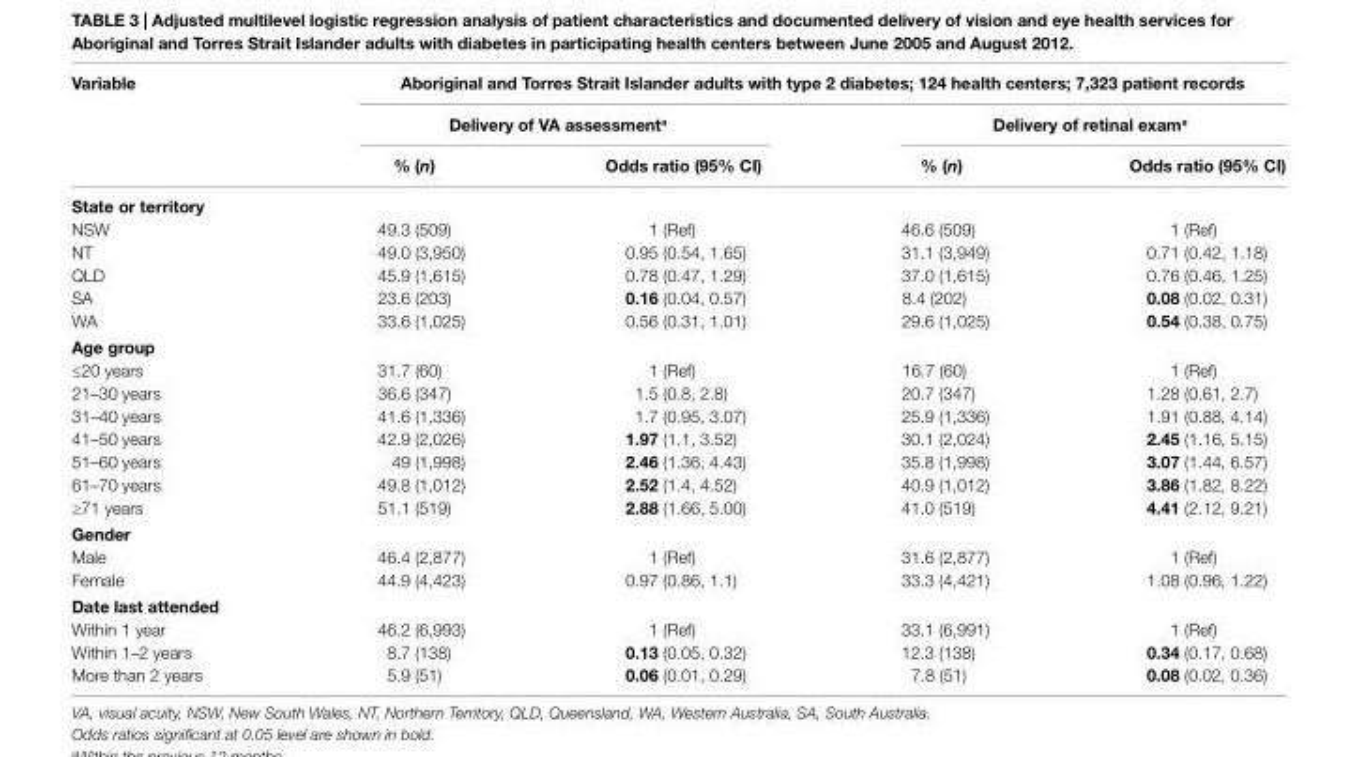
<table><thead><tr><td rowspan="3">Variable</td><td colspan="4">aboriginal and Torres strait islander adults with type 2 diabetes; 124 health centers; 7,323 patient records</td></tr><tr><td colspan="2">Delivery of Va assessment<sup>a</sup></td><td colspan="2">Delivery of retinal exam<sup>a</sup></td></tr><tr><td>% (n)</td><td>Odds ratio (95% ci)</td><td>% (n)</td><td>Odds ratio (95% ci)</td></tr></thead><tbody><tr><td colspan="5">state or territory</td></tr><tr><td>NSW</td><td>49.3 (509)</td><td>1 (Ref)</td><td>46.6 (509)</td><td>1 (Ref)</td></tr><tr><td>NT</td><td>49.0 (3,950)</td><td>0.95 (0.54, 1.65)</td><td>31.1 (3,949)</td><td>0.71 (0.42, 1.18)</td></tr><tr><td>QLD</td><td>45.9 (1,615)</td><td>0.78 (0.47, 1.29)</td><td>37.0 (1,615)</td><td>0.76 (0.46, 1.25)</td></tr><tr><td>SA</td><td>23.6 (203)</td><td>0.16 (0.04, 0.57)</td><td>8.4 (202)</td><td>0.08 (0.02, 0.31)</td></tr><tr><td>WA</td><td>33.6 (1,025)</td><td>0.56 (0.31, 1.01)</td><td>29.6 (1,025)</td><td>0.54 (0.38, 0.75)</td></tr><tr><td colspan="5">age group</td></tr><tr><td>≤20 years</td><td>31.7 (60)</td><td>1 (Ref)</td><td>16.7 (60)</td><td>1 (Ref)</td></tr><tr><td>21–30 years</td><td>36.6 (347)</td><td>1.5 (0.8, 2.8)</td><td>20.7 (347)</td><td>1.28 (0.61, 2.7)</td></tr><tr><td>31–40 years</td><td>41.6 (1,336)</td><td>1.7 (0.95, 3.07)</td><td>25.9 (1,336)</td><td>1.91 (0.88, 4.14)</td></tr><tr><td>41–50 years</td><td>42.9 (2,026)</td><td>1.97 (1.1, 3.52)</td><td>30.1 (2,024)</td><td>2.45 (1.16, 5.15)</td></tr><tr><td>51–60 years</td><td>49 (1,998)</td><td>2.46 (1.36, 4.43)</td><td>35.8 (1,998)</td><td>3.07 (1.44, 6.57)</td></tr><tr><td>61–70 years</td><td>49.8 (1,012)</td><td>2.52 (1.4, 4.52)</td><td>40.9 (1,012)</td><td>3.86 (1.82, 8.22)</td></tr><tr><td>≥71 years</td><td>51.1 (519)</td><td>2.88 (1.66, 5.00)</td><td>41.0 (519)</td><td>4.41 (2.12, 9.21)</td></tr><tr><td colspan="5">gender</td></tr><tr><td>Male</td><td>46.4 (2,877)</td><td>1 (Ref)</td><td>31.6 (2,877)</td><td>1 (Ref)</td></tr><tr><td>Female</td><td>44.9 (4,423)</td><td>0.97 (0.86, 1.1)</td><td>33.3 (4,421)</td><td>1.08 (0.96, 1.22)</td></tr><tr><td colspan="5">Date last attended</td></tr><tr><td>Within 1 year</td><td>46.2 (6,993)</td><td>1 (Ref)</td><td>33.1 (6,991)</td><td>1 (Ref)</td></tr><tr><td>Within 1–2 years</td><td>8.7 (138)</td><td>0.13 (0.05, 0.32)</td><td>12.3 (138)</td><td>0.34 (0.17, 0.68)</td></tr><tr><td>More than 2 years</td><td>5.9 (51)</td><td>0.06 (0.01, 0.29)</td><td>7.8 (51)</td><td>0.08 (0.02, 0.36)</td></tr></tbody></table>